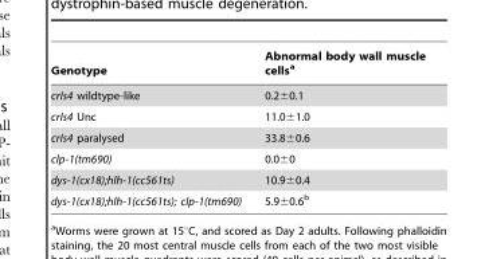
<table><thead><tr><td>Genotype</td><td>Abnormal body wall muscle cells<sup>a</sup></td></tr></thead><tbody><tr><td>crIs4 wildtype-like</td><td>0.2±0.1</td></tr><tr><td>crIs4 Unc</td><td>11.0±1.0</td></tr><tr><td>crIs4 paralysed</td><td>33.8±0.6</td></tr><tr><td>clp-1(tm690)</td><td>0.0±0</td></tr><tr><td>dys-1(cx18);hlh-1(cc561ts)</td><td>10.9±0.4</td></tr><tr><td>dys-1(cx18);hlh-1(cc561ts); clp-1(tm690)</td><td>5.9±0.6<sup>b</sup></td></tr></tbody></table>